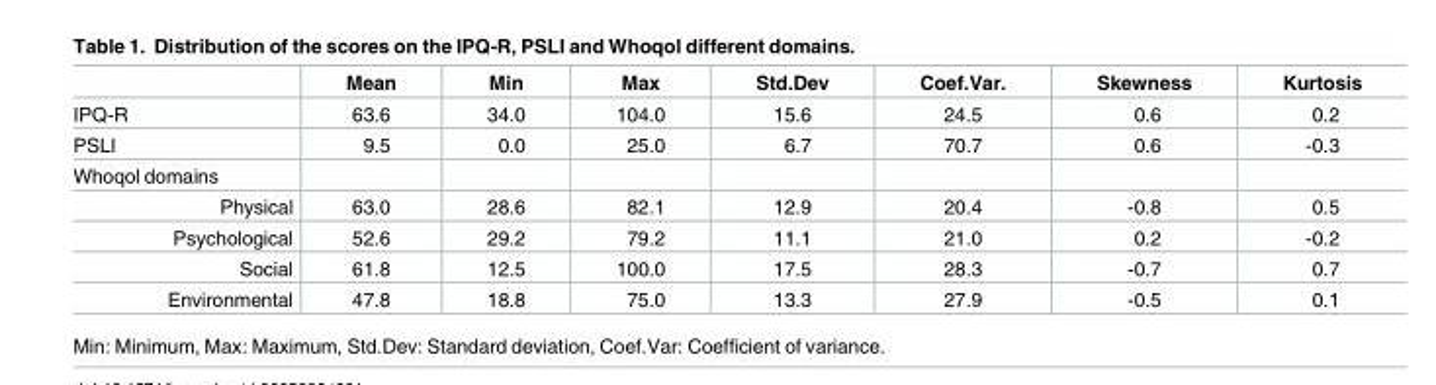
<table><thead><tr><td></td><td>Mean</td><td>Min</td><td>Max</td><td>Std.Dev</td><td>Coef.Var.</td><td>Skewness</td><td>Kurtosis</td></tr></thead><tbody><tr><td>IPQ-R</td><td>63.6</td><td>34.0</td><td>104.0</td><td>15.6</td><td>24.5</td><td>0.6</td><td>0.2</td></tr><tr><td>PSLI</td><td>9.5</td><td>0.0</td><td>25.0</td><td>6.7</td><td>70.7</td><td>0.6</td><td>-0.3</td></tr><tr><td colspan="8">Whoqol domains</td></tr><tr><td>Physical</td><td>63.0</td><td>28.6</td><td>82.1</td><td>12.9</td><td>20.4</td><td>-0.8</td><td>0.5</td></tr><tr><td>Psychological</td><td>52.6</td><td>29.2</td><td>79.2</td><td>11.1</td><td>21.0</td><td>0.2</td><td>-0.2</td></tr><tr><td>Social</td><td>61.8</td><td>12.5</td><td>100.0</td><td>17.5</td><td>28.3</td><td>-0.7</td><td>0.7</td></tr><tr><td>Environmental</td><td>47.8</td><td>18.8</td><td>75.0</td><td>13.3</td><td>27.9</td><td>-0.5</td><td>0.1</td></tr></tbody></table>